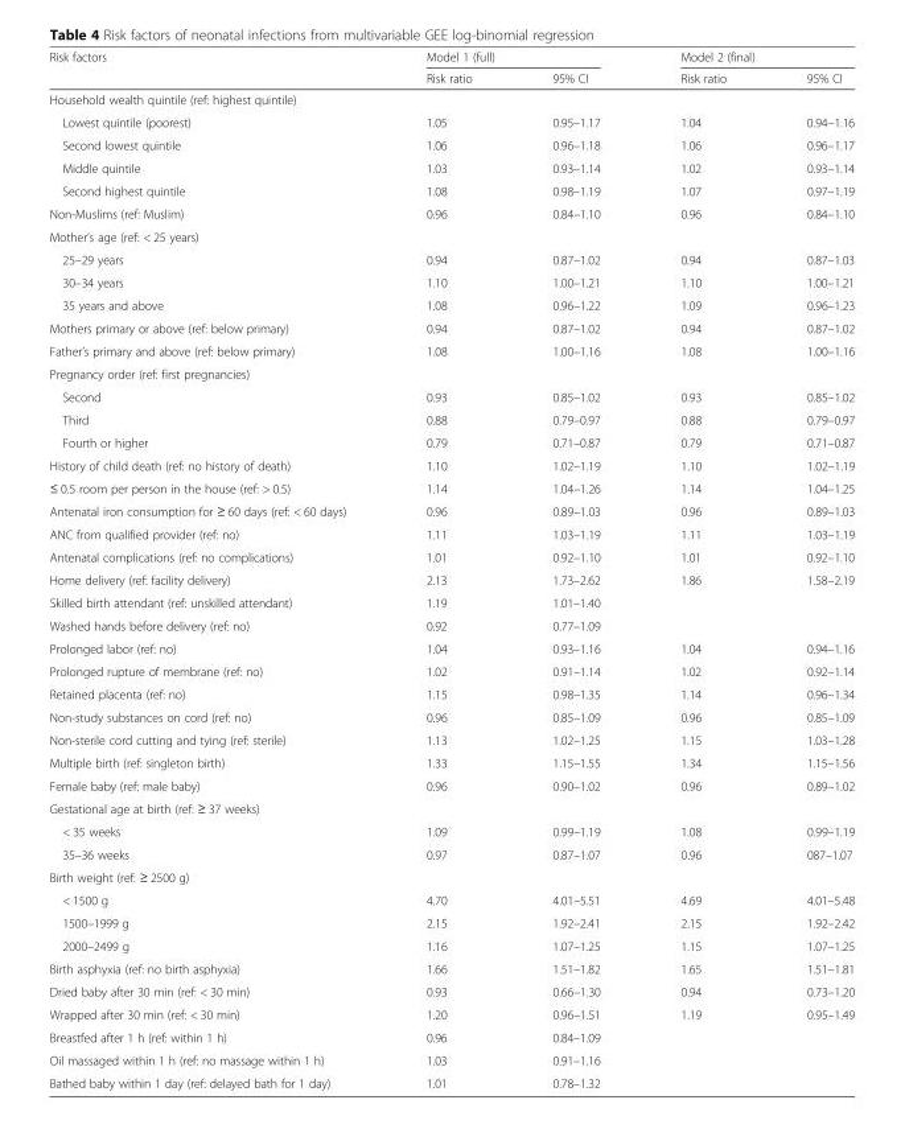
<table><thead><tr><td rowspan="2">Risk factors</td><td colspan="2">Model 1 (full)</td><td colspan="2">Model 2 (final)</td></tr><tr><td>Risk ratio</td><td>95% CI</td><td>Risk ratio</td><td>95% CI</td></tr></thead><tbody><tr><td colspan="5">Household wealth quintile (ref: highest quintile)</td></tr><tr><td>Lowest quintile (poorest)</td><td>1.05</td><td>0.95–1.17</td><td>1.04</td><td>0.94–1.16</td></tr><tr><td>Second lowest quintile</td><td>1.06</td><td>0.96–1.18</td><td>1.06</td><td>0.96–1.17</td></tr><tr><td>Middle quintile</td><td>1.03</td><td>0.93–1.14</td><td>1.02</td><td>0.93–1.14</td></tr><tr><td>Second highest quintile</td><td>1.08</td><td>0.98–1.19</td><td>1.07</td><td>0.97–1.19</td></tr><tr><td>Non-Muslims (ref: Muslim)</td><td>0.96</td><td>0.84–1.10</td><td>0.96</td><td>0.84–1.10</td></tr><tr><td colspan="5">Mother’s age (ref: &lt; 25 years)</td></tr><tr><td>25–29 years</td><td>0.94</td><td>0.87–1.02</td><td>0.94</td><td>0.87–1.03</td></tr><tr><td>30–34 years</td><td>1.10</td><td>1.00–1.21</td><td>1.10</td><td>1.00–1.21</td></tr><tr><td>35 years and above</td><td>1.08</td><td>0.96–1.22</td><td>1.09</td><td>0.96–1.23</td></tr><tr><td>Mothers primary or above (ref: below primary)</td><td>0.94</td><td>0.87–1.02</td><td>0.94</td><td>0.87–1.02</td></tr><tr><td>Father’s primary and above (ref: below primary)</td><td>1.08</td><td>1.00–1.16</td><td>1.08</td><td>1.00–1.16</td></tr><tr><td colspan="5">Pregnancy order (ref: first pregnancies)</td></tr><tr><td>Second</td><td>0.93</td><td>0.85–1.02</td><td>0.93</td><td>0.85–1.02</td></tr><tr><td>Third</td><td>0.88</td><td>0.79–0.97</td><td>0.88</td><td>0.79–0.97</td></tr><tr><td>Fourth or higher</td><td>0.79</td><td>0.71–0.87</td><td>0.79</td><td>0.71–0.87</td></tr><tr><td>History of child death (ref: no history of death)</td><td>1.10</td><td>1.02–1.19</td><td>1.10</td><td>1.02–1.19</td></tr><tr><td>≤ 0.5 room per person in the house (ref: &gt; 0.5)</td><td>1.14</td><td>1.04–1.26</td><td>1.14</td><td>1.04–1.25</td></tr><tr><td>Antenatal iron consumption for ≥ 60 days (ref: &lt; 60 days)</td><td>0.96</td><td>0.89–1.03</td><td>0.96</td><td>0.89–1.03</td></tr><tr><td>ANC from qualified provider (ref: no)</td><td>1.11</td><td>1.03–1.19</td><td>1.11</td><td>1.03–1.19</td></tr><tr><td>Antenatal complications (ref: no complications)</td><td>1.01</td><td>0.92–1.10</td><td>1.01</td><td>0.92–1.10</td></tr><tr><td>Home delivery (ref: facility delivery)</td><td>2.13</td><td>1.73–2.62</td><td>1.86</td><td>1.58–2.19</td></tr><tr><td>Skilled birth attendant (ref: unskilled attendant)</td><td>1.19</td><td>1.01–1.40</td><td></td><td></td></tr><tr><td>Washed hands before delivery (ref: no)</td><td>0.92</td><td>0.77–1.09</td><td></td><td></td></tr><tr><td>Prolonged labor (ref: no)</td><td>1.04</td><td>0.93–1.16</td><td>1.04</td><td>0.94–1.16</td></tr><tr><td>Prolonged rupture of membrane (ref: no)</td><td>1.02</td><td>0.91–1.14</td><td>1.02</td><td>0.92–1.14</td></tr><tr><td>Retained placenta (ref: no)</td><td>1.15</td><td>0.98–1.35</td><td>1.14</td><td>0.96–1.34</td></tr><tr><td>Non-study substances on cord (ref: no)</td><td>0.96</td><td>0.85–1.09</td><td>0.96</td><td>0.85–1.09</td></tr><tr><td>Non-sterile cord cutting and tying (ref: sterile)</td><td>1.13</td><td>1.02–1.25</td><td>1.15</td><td>1.03–1.28</td></tr><tr><td>Multiple birth (ref: singleton birth)</td><td>1.33</td><td>1.15–1.55</td><td>1.34</td><td>1.15–1.56</td></tr><tr><td>Female baby (ref: male baby)</td><td>0.96</td><td>0.90–1.02</td><td>0.96</td><td>0.89–1.02</td></tr><tr><td colspan="5">Gestational age at birth (ref: ≥ 37 weeks)</td></tr><tr><td>&lt; 35 weeks</td><td>1.09</td><td>0.99–1.19</td><td>1.08</td><td>0.99–1.19</td></tr><tr><td>35–36 weeks</td><td>0.97</td><td>0.87–1.07</td><td>0.96</td><td>087–1.07</td></tr><tr><td colspan="5">Birth weight (ref: ≥ 2500 g)</td></tr><tr><td>&lt; 1500 g</td><td>4.70</td><td>4.01–5.51</td><td>4.69</td><td>4.01–5.48</td></tr><tr><td>1500–1999 g</td><td>2.15</td><td>1.92–2.41</td><td>2.15</td><td>1.92–2.42</td></tr><tr><td>2000–2499 g</td><td>1.16</td><td>1.07–1.25</td><td>1.15</td><td>1.07–1.25</td></tr><tr><td>Birth asphyxia (ref: no birth asphyxia)</td><td>1.66</td><td>1.51–1.82</td><td>1.65</td><td>1.51–1.81</td></tr><tr><td>Dried baby after 30 min (ref: &lt; 30 min)</td><td>0.93</td><td>0.66–1.30</td><td>0.94</td><td>0.73–1.20</td></tr><tr><td>Wrapped after 30 min (ref: &lt; 30 min)</td><td>1.20</td><td>0.96–1.51</td><td>1.19</td><td>0.95–1.49</td></tr><tr><td>Breastfed after 1 h (ref: within 1 h)</td><td>0.96</td><td>0.84–1.09</td><td></td><td></td></tr><tr><td>Oil massaged within 1 h (ref: no massage within 1 h)</td><td>1.03</td><td>0.91–1.16</td><td></td><td></td></tr><tr><td>Bathed baby within 1 day (ref: delayed bath for 1 day)</td><td>1.01</td><td>0.78–1.32</td><td></td><td></td></tr></tbody></table>